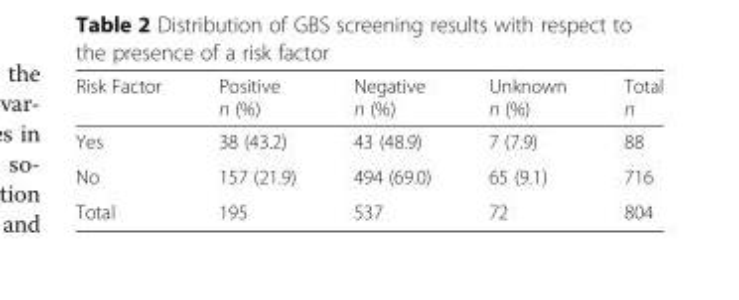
<table><thead><tr><td>Risk Factor</td><td>Positive n (%)</td><td>Negative n (%)</td><td>Unknown n (%)</td><td>Total n</td></tr></thead><tbody><tr><td>Yes</td><td>38 (43.2)</td><td>43 (48.9)</td><td>7 (7.9)</td><td>88</td></tr><tr><td>No</td><td>157 (21.9)</td><td>494 (69.0)</td><td>65 (9.1)</td><td>716</td></tr><tr><td>Total</td><td>195</td><td>537</td><td>72</td><td>804</td></tr></tbody></table>